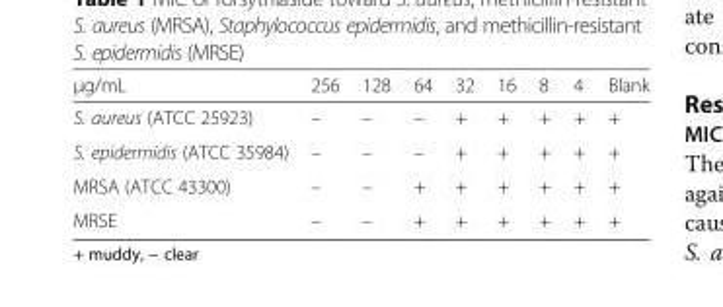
<table><thead><tr><td>μg/mL</td><td>256</td><td>128</td><td>64</td><td>32</td><td>16</td><td>8</td><td>4</td><td>Blank</td></tr></thead><tbody><tr><td>S. aureus (ATCC 25923)</td><td>–</td><td>–</td><td>–</td><td>+</td><td>+</td><td>+</td><td>+</td><td>+</td></tr><tr><td>S. epidermidis (ATCC 35984)</td><td>–</td><td>–</td><td>–</td><td>+</td><td>+</td><td>+</td><td>+</td><td>+</td></tr><tr><td>MRSA (ATCC 43300)</td><td>–</td><td>–</td><td>+</td><td>+</td><td>+</td><td>+</td><td>+</td><td>+</td></tr><tr><td>MRSE</td><td>–</td><td>–</td><td>+</td><td>+</td><td>+</td><td>+</td><td>+</td><td>+</td></tr></tbody></table>